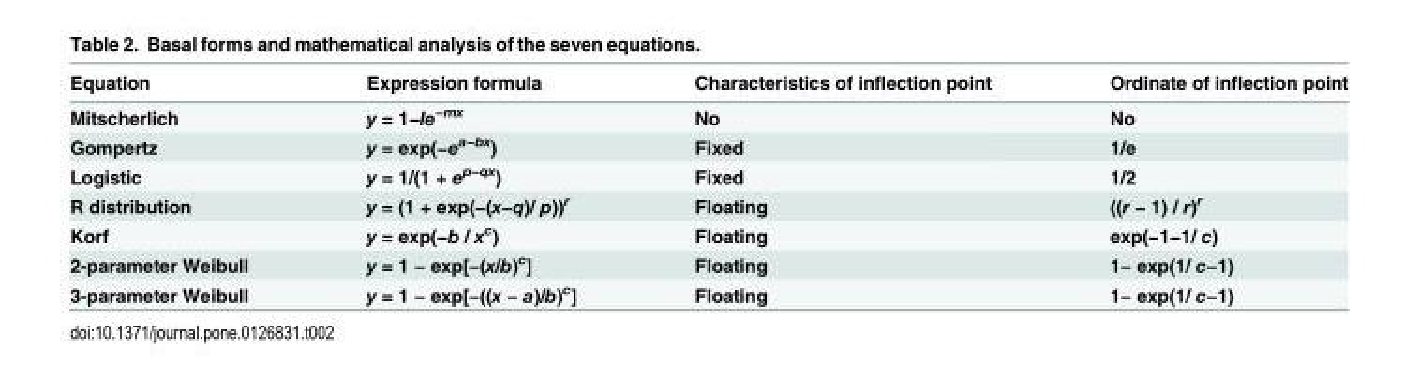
<table><thead><tr><td>Equation</td><td>Expression formula</td><td>Characteristics of inflection point</td><td>Ordinate of inflection point</td></tr></thead><tbody><tr><td>Mitscherlich</td><td>y = 1−le<sup>−mx</sup></td><td>No</td><td>No</td></tr><tr><td>Gompertz</td><td>y = exp(−e<sup>a−bx</sup>)</td><td>Fixed</td><td>1/e</td></tr><tr><td>Logistic</td><td>y = 1/(1 + e<sup>p−qx</sup>)</td><td>Fixed</td><td>1/2</td></tr><tr><td>R distribution</td><td>y = (1 + exp(−(x−q)/ p))<sup>r</sup></td><td>Floating</td><td>((r − 1) / r)<sup>r</sup></td></tr><tr><td>Korf</td><td>y = exp(−b / x<sup>c</sup>)</td><td>Floating</td><td>exp(−1−1/ c)</td></tr><tr><td>2-parameter Weibull</td><td>y = 1 − exp[−(x/b)<sup>c</sup>]</td><td>Floating</td><td>1− exp(1/ c−1)</td></tr><tr><td>3-parameter Weibull</td><td>y = 1 − exp[−((x − a)/b)<sup>c</sup>]</td><td>Floating</td><td>1− exp(1/ c−1)</td></tr></tbody></table>